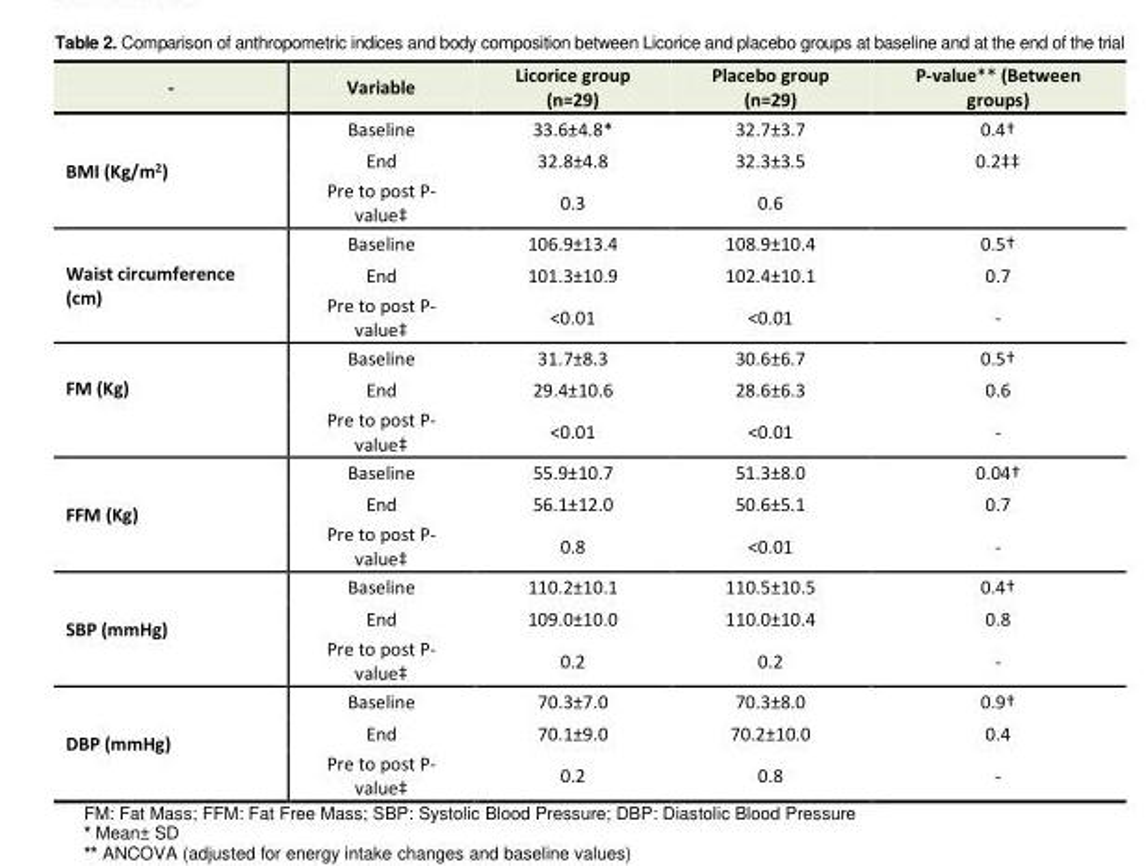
<table><tbody><tr><td>-</td><td>Variable</td><td>Licorice group (n=29)</td><td>Placebo group (n=29)</td><td>P-value** (Between groups)</td></tr><tr><td rowspan="3">BMI (Kg/m<sup>2</sup>)</td><td>Baseline</td><td>33.6±4.8*</td><td>32.7±3.7</td><td>0.4†</td></tr><tr><td>End</td><td>32.8±4.8</td><td>32.3±3.5</td><td>0.2‡‡</td></tr><tr><td>Pre to post P- value‡</td><td>0.3</td><td>0.6</td><td></td></tr><tr><td rowspan="3">Waist circumference (cm)</td><td>Baseline</td><td>106.9±13.4</td><td>108.9±10.4</td><td>0.5†</td></tr><tr><td>End</td><td>101.3±10.9</td><td>102.4±10.1</td><td>0.7</td></tr><tr><td>Pre to post P- value‡</td><td>&lt;0.01</td><td>&lt;0.01</td><td>-</td></tr><tr><td rowspan="3">FM (Kg)</td><td>Baseline</td><td>31.7±8.3</td><td>30.6±6.7</td><td>0.5†</td></tr><tr><td>End</td><td>29.4±10.6</td><td>28.6±6.3</td><td>0.6</td></tr><tr><td>Pre to post P- value‡</td><td>&lt;0.01</td><td>&lt;0.01</td><td>-</td></tr><tr><td rowspan="3">FFM (Kg)</td><td>Baseline</td><td>55.9±10.7</td><td>51.3±8.0</td><td>0.04†</td></tr><tr><td>End</td><td>56.1±12.0</td><td>50.6±5.1</td><td>0.7</td></tr><tr><td>Pre to post P- value‡</td><td>0.8</td><td>&lt;0.01</td><td>-</td></tr><tr><td rowspan="3">SBP (mmHg)</td><td>Baseline</td><td>110.2±10.1</td><td>110.5±10.5</td><td>0.4†</td></tr><tr><td>End</td><td>109.0±10.0</td><td>110.0±10.4</td><td>0.8</td></tr><tr><td>Pre to post P- value‡</td><td>0.2</td><td>0.2</td><td>-</td></tr><tr><td rowspan="3">DBP (mmHg)</td><td>Baseline</td><td>70.3±7.0</td><td>70.3±8.0</td><td>0.9†</td></tr><tr><td>End</td><td>70.1±9.0</td><td>70.2±10.0</td><td>0.4</td></tr><tr><td>Pre to post P- value‡</td><td>0.2</td><td>0.8</td><td>-</td></tr></tbody></table>